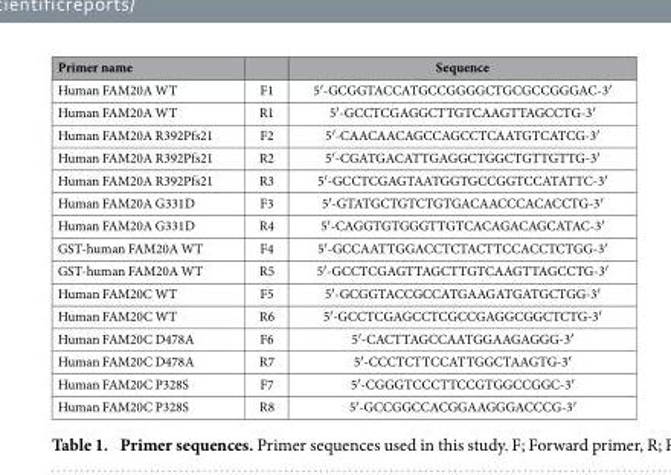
<table><thead><tr><td>Primer name</td><td></td><td>Sequence</td></tr></thead><tbody><tr><td>Human FAM20A WT</td><td>F1</td><td>5′ -GCGGTACCATGCCGGGGCTGCGCCGGGAC-3′</td></tr><tr><td>Human FAM20A WT</td><td>R1</td><td>5′ -GCCTCGAGGCTTGTCAAGTTAGCCTG-3′</td></tr><tr><td>Human FAM20A R392Pfs21</td><td>F2</td><td>5′ -CAACAACAGCCAGCCTCAATGTCATCG-3′</td></tr><tr><td>Human FAM20A R392Pfs21</td><td>R2</td><td>5′ -CGATGACATTGAGGCTGGCTGTTGTTG-3′</td></tr><tr><td>Human FAM20A R392Pfs21</td><td>R3</td><td>5′ -GCCTCGAGTAATGGTGCCGGTCCATATTC-3′</td></tr><tr><td>Human FAM20A G331D</td><td>F3</td><td>5′ -GTATGCTGTCTGTGACAACCCACACCTG-3′</td></tr><tr><td>Human FAM20A G331D</td><td>R4</td><td>5′ -CAGGTGTGGGTTGTCACAGACAGCATAC-3′</td></tr><tr><td>GST-human FAM20A WT</td><td>F4</td><td>5′ -GCCAATTGGACCTCTACTTCCACCTCTGG-3′</td></tr><tr><td>GST-human FAM20A WT</td><td>R5</td><td>5′ -GCCTCGAGTTAGCTTGTCAAGTTAGCCTG-3′</td></tr><tr><td>Human FAM20C WT</td><td>F5</td><td>5′ -GCGGTACCGCCATGAAGATGATGCTGG-3′</td></tr><tr><td>Human FAM20C WT</td><td>R6</td><td>5′ -GCCTCGAGCCTCGCCGAGGCGGCTCTG-3′</td></tr><tr><td>Human FAM20C D478A</td><td>F6</td><td>5′ -CACTTAGCCAATGGAAGAGGG-3′</td></tr><tr><td>Human FAM20C D478A</td><td>R7</td><td>5′ -CCCTCTTCCATTGGCTAAGTG-3′</td></tr><tr><td>Human FAM20C P328S</td><td>F7</td><td>5′ -CGGGTCCCTTCCGTGGCCGGC-3′</td></tr><tr><td>Human FAM20C P328S</td><td>R8</td><td>5′ -GCCGGCCACGGAAGGGACCCG-3′</td></tr></tbody></table>